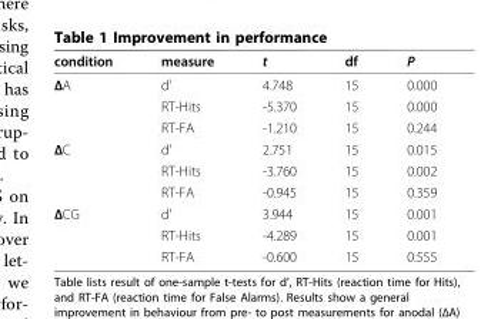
<table><thead><tr><td>condition</td><td>measure</td><td>t</td><td>df</td><td>P</td></tr></thead><tbody><tr><td rowspan="3">ΔA</td><td>d’</td><td>4.748</td><td>15</td><td>0.000</td></tr><tr><td>RT-Hits</td><td>-5.370</td><td>15</td><td>0.000</td></tr><tr><td>RT-FA</td><td>-1.210</td><td>15</td><td>0.244</td></tr><tr><td rowspan="3">ΔC</td><td>d’</td><td>2.751</td><td>15</td><td>0.015</td></tr><tr><td>RT-Hits</td><td>-3.760</td><td>15</td><td>0.002</td></tr><tr><td>RT-FA</td><td>-0.945</td><td>15</td><td>0.359</td></tr><tr><td rowspan="3">ΔCG</td><td>d’</td><td>3.944</td><td>15</td><td>0.001</td></tr><tr><td>RT-Hits</td><td>-4.289</td><td>15</td><td>0.001</td></tr><tr><td>RT-FA</td><td>-0.600</td><td>15</td><td>0.555</td></tr></tbody></table>